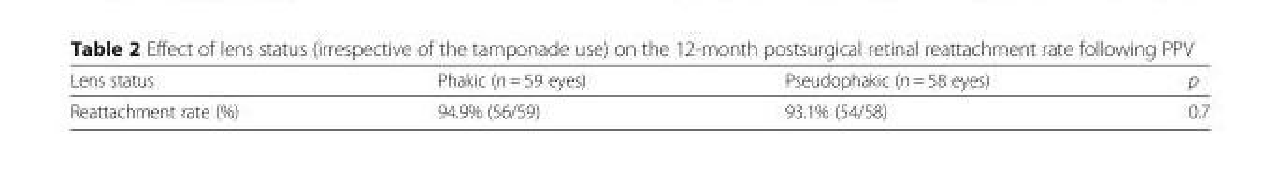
<table><thead><tr><td>Lens status</td><td>Phakic (n = 59 eyes)</td><td>Pseudophakic (n = 58 eyes)</td><td>p</td></tr></thead><tbody><tr><td>Reattachment rate (%)</td><td>94.9% (56/59)</td><td>93.1% (54/58)</td><td>0.7</td></tr></tbody></table>